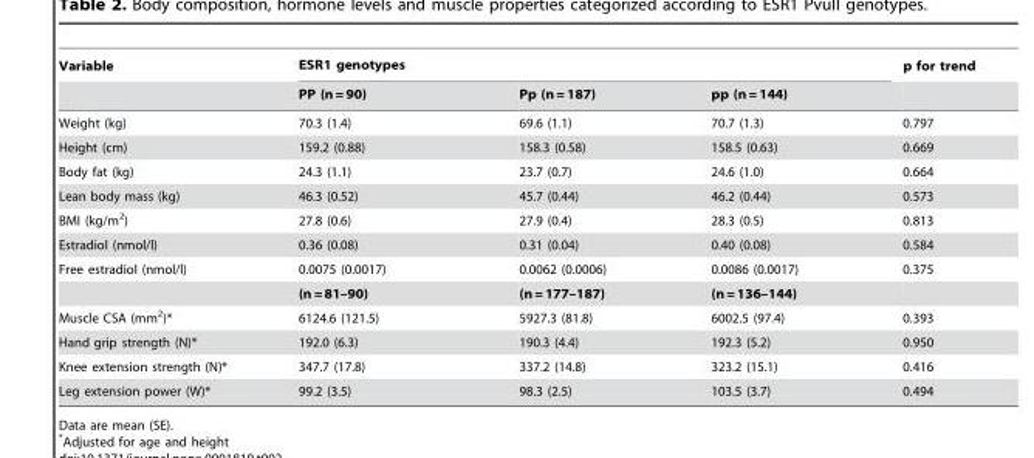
<table><thead><tr><td rowspan="2">Variable</td><td colspan="3">ESR1 genotypes</td><td rowspan="2">p for trend</td></tr><tr><td>PP (n = 90)</td><td>Pp (n = 187)</td><td>pp (n = 144)</td></tr></thead><tbody><tr><td>Weight (kg)</td><td>70.3 (1.4)</td><td>69.6 (1.1)</td><td>70.7 (1.3)</td><td>0.797</td></tr><tr><td>Height (cm)</td><td>159.2 (0.88)</td><td>158.3 (0.58)</td><td>158.5 (0.63)</td><td>0.669</td></tr><tr><td>Body fat (kg)</td><td>24.3 (1.1)</td><td>23.7 (0.7)</td><td>24.6 (1.0)</td><td>0.664</td></tr><tr><td>Lean body mass (kg)</td><td>46.3 (0.52)</td><td>45.7 (0.44)</td><td>46.2 (0.44)</td><td>0.573</td></tr><tr><td>BMI (kg/m<sup>2</sup>)</td><td>27.8 (0.6)</td><td>27.9 (0.4)</td><td>28.3 (0.5)</td><td>0.813</td></tr><tr><td>Estradiol (nmol/l)</td><td>0.36 (0.08)</td><td>0.31 (0.04)</td><td>0.40 (0.08)</td><td>0.584</td></tr><tr><td rowspan="2">Free estradiol (nmol/l)</td><td>0.0075 (0.0017)</td><td>0.0062 (0.0006)</td><td>0.0086 (0.0017)</td><td>0.375</td></tr><tr><td>(n = 81–90)</td><td>(n = 177–187)</td><td>(n = 136–144)</td><td></td></tr><tr><td>Muscle CSA (mm<sup>2</sup>)*</td><td>6124.6 (121.5)</td><td>5927.3 (81.8)</td><td>6002.5 (97.4)</td><td>0.393</td></tr><tr><td>Hand grip strength (N)*</td><td>192.0 (6.3)</td><td>190.3 (4.4)</td><td>192.3 (5.2)</td><td>0.950</td></tr><tr><td>Knee extension strength (N)*</td><td>347.7 (17.8)</td><td>337.2 (14.8)</td><td>323.2 (15.1)</td><td>0.416</td></tr><tr><td>Leg extension power (W)*</td><td>99.2 (3.5)</td><td>98.3 (2.5)</td><td>103.5 (3.7)</td><td>0.494</td></tr></tbody></table>